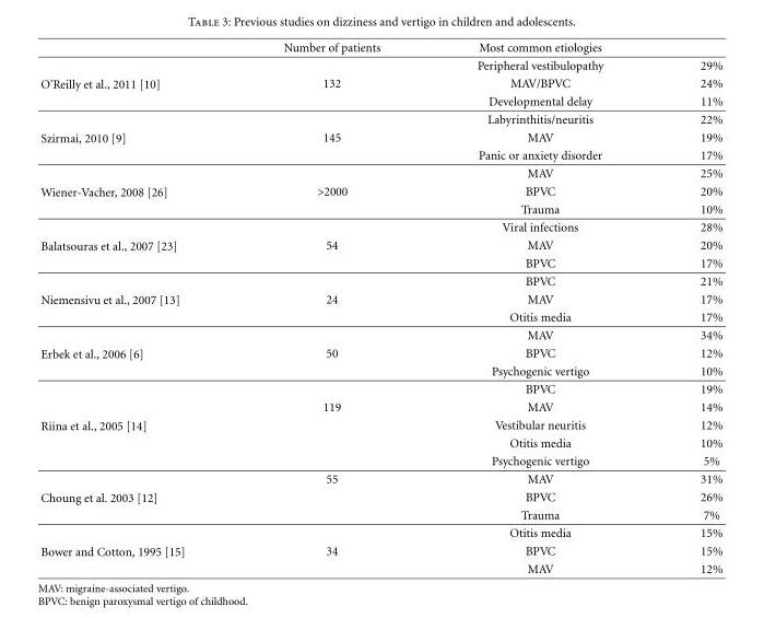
<table><thead><tr><td></td><td>Number of patients</td><td>Most common etiologies</td><td></td></tr></thead><tbody><tr><td></td><td></td><td>Peripheral vestibulopathy</td><td>29%</td></tr><tr><td rowspan="3">O’Reilly et al., 2011 [10]</td><td>132</td><td>MAV/BPVC</td><td>24%</td></tr><tr><td></td><td>Developmental delay</td><td>11%</td></tr><tr><td></td><td>Labyrinthitis/neuritis</td><td>22%</td></tr><tr><td rowspan="3">Szirmai, 2010 [9]</td><td>145</td><td>MAV</td><td>19%</td></tr><tr><td></td><td>Panic or anxiety disorder</td><td>17%</td></tr><tr><td></td><td>MAV</td><td>25%</td></tr><tr><td rowspan="3">Wiener-Vacher, 2008 [26]</td><td>&gt;2000</td><td>BPVC</td><td>20%</td></tr><tr><td></td><td>Trauma</td><td>10%</td></tr><tr><td></td><td>Viral infections</td><td>28%</td></tr><tr><td rowspan="3">Balatsouras et al., 2007 [23]</td><td>54</td><td>MAV</td><td>20%</td></tr><tr><td></td><td>BPVC</td><td>17%</td></tr><tr><td></td><td>BPVC</td><td>21%</td></tr><tr><td rowspan="3">Niemensivu et al., 2007 [13]</td><td>24</td><td>MAV</td><td>17%</td></tr><tr><td></td><td>Otitis media</td><td>17%</td></tr><tr><td></td><td>MAV</td><td>34%</td></tr><tr><td rowspan="4">Erbek et al., 2006 [6]</td><td>50</td><td>BPVC</td><td>12%</td></tr><tr><td></td><td>Psychogenic vertigo</td><td>10%</td></tr><tr><td></td><td>BPVC</td><td>19%</td></tr><tr><td>119</td><td>MAV</td><td>14%</td></tr><tr><td rowspan="4">Riina et al., 2005 [14]</td><td></td><td>Vestibular neuritis</td><td>12%</td></tr><tr><td></td><td>Otitis media</td><td>10%</td></tr><tr><td></td><td>Psychogenic vertigo</td><td>5%</td></tr><tr><td>55</td><td>MAV</td><td>31%</td></tr><tr><td rowspan="3">Choung et al. 2003 [12]</td><td></td><td>BPVC</td><td>26%</td></tr><tr><td></td><td>Trauma</td><td>7%</td></tr><tr><td></td><td>Otitis media</td><td>15%</td></tr><tr><td rowspan="2">Bower and Cotton, 1995 [15]</td><td>34</td><td>BPVC</td><td>15%</td></tr><tr><td></td><td>MAV</td><td>12%</td></tr></tbody></table>